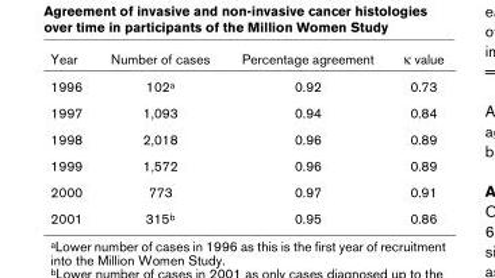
<table><thead><tr><td>Year</td><td>Number of cases</td><td>Percentage agreement</td><td>κ value</td></tr></thead><tbody><tr><td>1996</td><td>102a</td><td>0.92</td><td>0.73</td></tr><tr><td>1997</td><td>1,093</td><td>0.94</td><td>0.84</td></tr><tr><td>1998</td><td>2,018</td><td>0.96</td><td>0.89</td></tr><tr><td>1999</td><td>1,572</td><td>0.96</td><td>0.89</td></tr><tr><td>2000</td><td>773</td><td>0.97</td><td>0.91</td></tr><tr><td>2001</td><td>315b</td><td>0.95</td><td>0.86</td></tr></tbody></table>